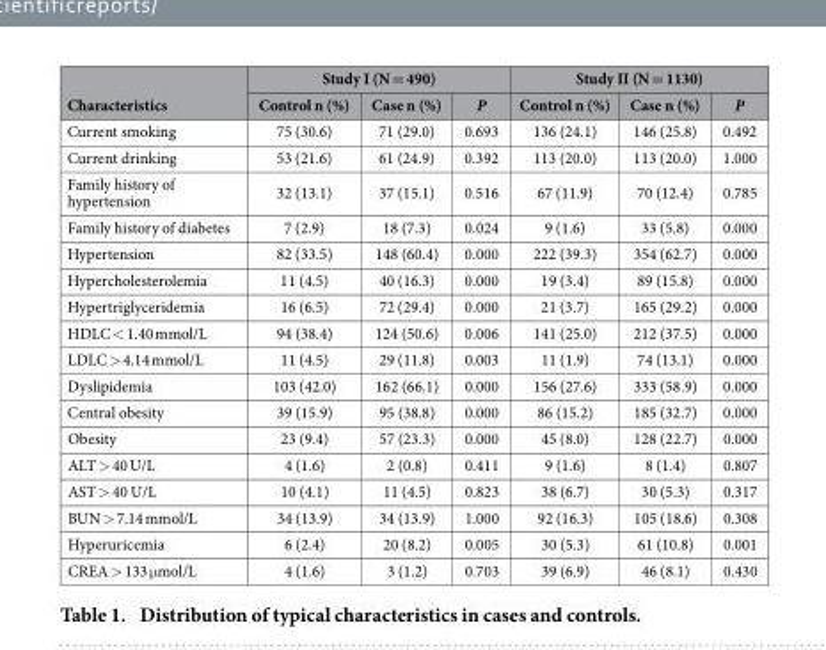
<table><thead><tr><td rowspan="2">Characteristics</td><td colspan="3">Study I (N = 490)</td><td colspan="3">Study II (N = 1130)</td></tr><tr><td>Control n (%)</td><td>Case n (%)</td><td>P</td><td>Control n (%)</td><td>Case n (%)</td><td>P</td></tr></thead><tbody><tr><td>Current smoking</td><td>75 (30.6)</td><td>71 (29.0)</td><td>0.693</td><td>136 (24.1)</td><td>146 (25.8)</td><td>0.492</td></tr><tr><td>Current drinking</td><td>53 (21.6)</td><td>61 (24.9)</td><td>0.392</td><td>113 (20.0)</td><td>113 (20.0)</td><td>1.000</td></tr><tr><td>Family history of hypertension</td><td>32 (13.1)</td><td>37 (15.1)</td><td>0.516</td><td>67 (11.9)</td><td>70 (12.4)</td><td>0.785</td></tr><tr><td>Family history of diabetes</td><td>7 (2.9)</td><td>18 (7.3)</td><td>0.024</td><td>9 (1.6)</td><td>33 (5.8)</td><td>0.000</td></tr><tr><td>Hypertension</td><td>82 (33.5)</td><td>148 (60.4)</td><td>0.000</td><td>222 (39.3)</td><td>354 (62.7)</td><td>0.000</td></tr><tr><td>Hypercholesterolemia</td><td>11 (4.5)</td><td>40 (16.3)</td><td>0.000</td><td>19 (3.4)</td><td>89 (15.8)</td><td>0.000</td></tr><tr><td>Hypertriglyceridemia</td><td>16 (6.5)</td><td>72 (29.4)</td><td>0.000</td><td>21 (3.7)</td><td>165 (29.2)</td><td>0.000</td></tr><tr><td>HDLC &lt; 1.40 mmol/L</td><td>94 (38.4)</td><td>124 (50.6)</td><td>0.006</td><td>141 (25.0)</td><td>212 (37.5)</td><td>0.000</td></tr><tr><td>LDLC &gt; 4.14 mmol/L</td><td>11 (4.5)</td><td>29 (11.8)</td><td>0.003</td><td>11 (1.9)</td><td>74 (13.1)</td><td>0.000</td></tr><tr><td>Dyslipidemia</td><td>103 (42.0)</td><td>162 (66.1)</td><td>0.000</td><td>156 (27.6)</td><td>333 (58.9)</td><td>0.000</td></tr><tr><td>Central obesity</td><td>39 (15.9)</td><td>95 (38.8)</td><td>0.000</td><td>86 (15.2)</td><td>185 (32.7)</td><td>0.000</td></tr><tr><td>Obesity</td><td>23 (9.4)</td><td>57 (23.3)</td><td>0.000</td><td>45 (8.0)</td><td>128 (22.7)</td><td>0.000</td></tr><tr><td>ALT &gt; 40 U/L</td><td>4 (1.6)</td><td>2 (0.8)</td><td>0.411</td><td>9 (1.6)</td><td>8 (1.4)</td><td>0.807</td></tr><tr><td>AST &gt; 40 U/L</td><td>10 (4.1)</td><td>11 (4.5)</td><td>0.823</td><td>38 (6.7)</td><td>30 (5.3)</td><td>0.317</td></tr><tr><td>BUN &gt; 7.14 mmol/L</td><td>34 (13.9)</td><td>34 (13.9)</td><td>1.000</td><td>92 (16.3)</td><td>105 (18.6)</td><td>0.308</td></tr><tr><td>Hyperuricemia</td><td>6 (2.4)</td><td>20 (8.2)</td><td>0.005</td><td>30 (5.3)</td><td>61 (10.8)</td><td>0.001</td></tr><tr><td>CREA &gt; 133 μ mol/L</td><td>4 (1.6)</td><td>3 (1.2)</td><td>0.703</td><td>39 (6.9)</td><td>46 (8.1)</td><td>0.430</td></tr></tbody></table>